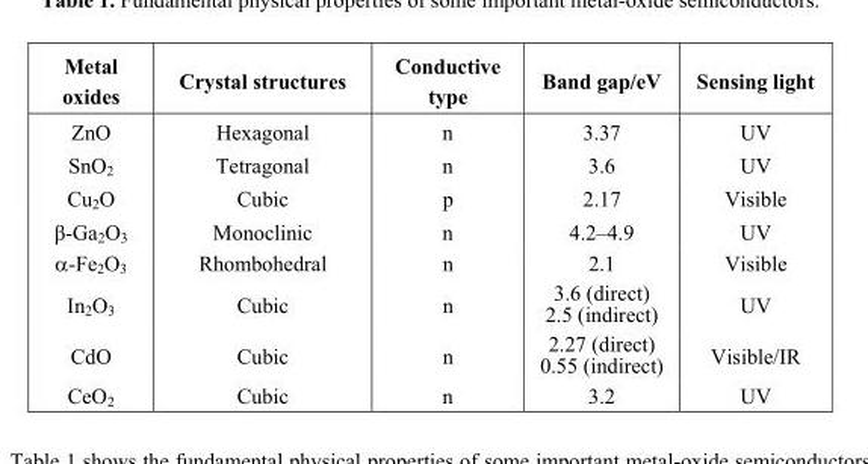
<table><thead><tr><td>Metal oxides</td><td>Crystal structures</td><td>Conductive type</td><td>Band gap/eV</td><td>Sensing light</td></tr></thead><tbody><tr><td>ZnO</td><td>Hexagonal</td><td>n</td><td>3.37</td><td>UV</td></tr><tr><td>SnO<sub>2</sub></td><td>Tetragonal</td><td>n</td><td>3.6</td><td>UV</td></tr><tr><td>Cu<sub>2</sub>O</td><td>Cubic</td><td>p</td><td>2.17</td><td>Visible</td></tr><tr><td>β-Ga<sub>2</sub>O<sub>3</sub></td><td>Monoclinic</td><td>n</td><td>4.2–4.9</td><td>UV</td></tr><tr><td>α-Fe<sub>2</sub>O<sub>3</sub></td><td>Rhombohedral</td><td>n</td><td>2.1</td><td>Visible</td></tr><tr><td>In<sub>2</sub>O<sub>3</sub></td><td>Cubic</td><td>n</td><td>3.6 (direct) 2.5 (indirect)</td><td>UV</td></tr><tr><td>CdO</td><td>Cubic</td><td>n</td><td>2.27 (direct) 0.55 (indirect)</td><td>Visible/IR</td></tr><tr><td>CeO<sub>2</sub></td><td>Cubic</td><td>n</td><td>3.2</td><td>UV</td></tr></tbody></table>